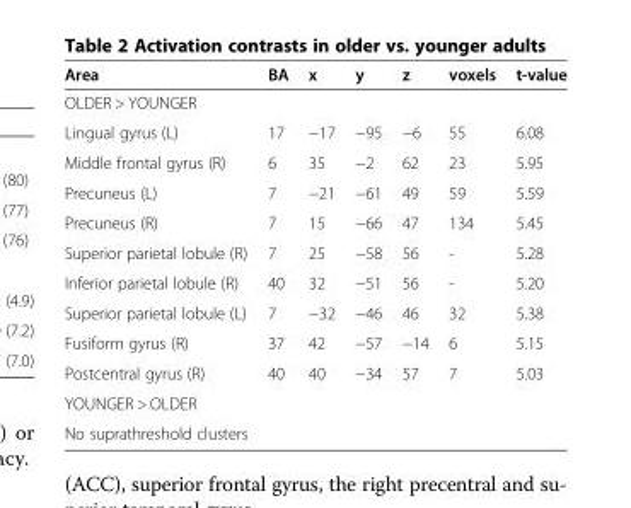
<table><thead><tr><td>Area</td><td>BA</td><td>x</td><td>y</td><td>z</td><td>voxels</td><td>t-value</td></tr></thead><tbody><tr><td colspan="7">OLDER &gt; YOUNGER</td></tr><tr><td>Lingual gyrus (L)</td><td>17</td><td>−17</td><td>−95</td><td>−6</td><td>55</td><td>6.08</td></tr><tr><td>Middle frontal gyrus (R)</td><td>6</td><td>35</td><td>−2</td><td>62</td><td>23</td><td>5.95</td></tr><tr><td>Precuneus (L)</td><td>7</td><td>−21</td><td>−61</td><td>49</td><td>59</td><td>5.59</td></tr><tr><td>Precuneus (R)</td><td>7</td><td>15</td><td>−66</td><td>47</td><td>134</td><td>5.45</td></tr><tr><td>Superior parietal lobule (R)</td><td>7</td><td>25</td><td>−58</td><td>56</td><td>-</td><td>5.28</td></tr><tr><td>Inferior parietal lobule (R)</td><td>40</td><td>32</td><td>−51</td><td>56</td><td>-</td><td>5.20</td></tr><tr><td>Superior parietal lobule (L)</td><td>7</td><td>−32</td><td>−46</td><td>46</td><td>32</td><td>5.38</td></tr><tr><td>Fusiform gyrus (R)</td><td>37</td><td>42</td><td>−57</td><td>−14</td><td>6</td><td>5.15</td></tr><tr><td>Postcentral gyrus (R)</td><td>40</td><td>40</td><td>−34</td><td>57</td><td>7</td><td>5.03</td></tr><tr><td colspan="7">YOUNGER &gt; OLDER</td></tr><tr><td>No suprathreshold clusters</td><td></td><td></td><td></td><td></td><td></td><td></td></tr></tbody></table>